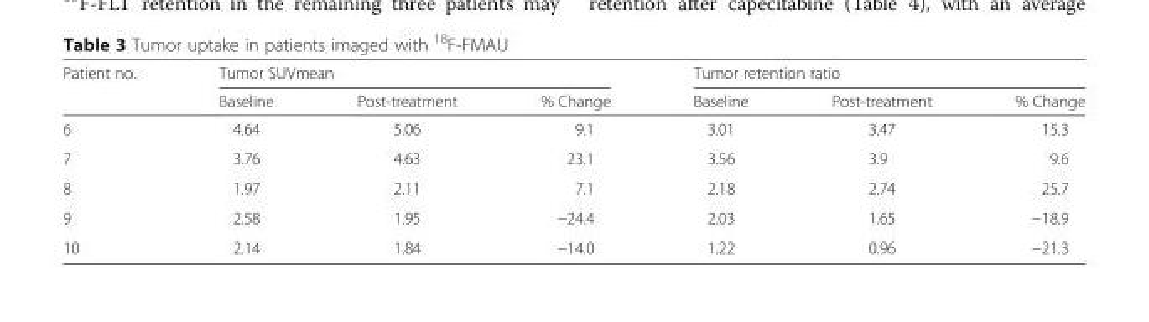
<table><thead><tr><td rowspan="2">Patient no.</td><td colspan="3">Tumor SUVmean</td><td colspan="3">Tumor retention ratio</td></tr><tr><td>Baseline</td><td>Post-treatment</td><td>% Change</td><td>Baseline</td><td>Post-treatment</td><td>% Change</td></tr></thead><tbody><tr><td>6</td><td>4.64</td><td>5.06</td><td>9.1</td><td>3.01</td><td>3.47</td><td>15.3</td></tr><tr><td>7</td><td>3.76</td><td>4.63</td><td>23.1</td><td>3.56</td><td>3.9</td><td>9.6</td></tr><tr><td>8</td><td>1.97</td><td>2.11</td><td>7.1</td><td>2.18</td><td>2.74</td><td>25.7</td></tr><tr><td>9</td><td>2.58</td><td>1.95</td><td>−24.4</td><td>2.03</td><td>1.65</td><td>−18.9</td></tr><tr><td>10</td><td>2.14</td><td>1.84</td><td>−14.0</td><td>1.22</td><td>0.96</td><td>−21.3</td></tr></tbody></table>